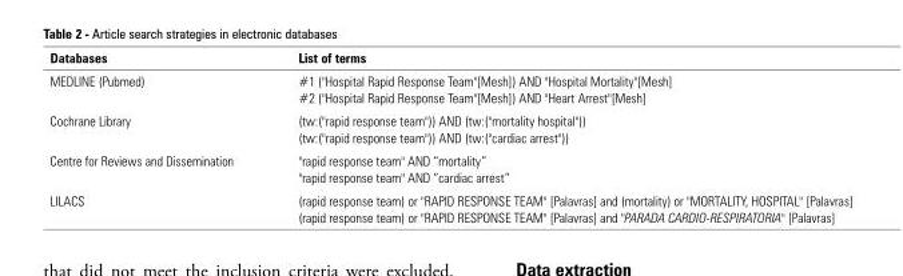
<table><thead><tr><td>Databases</td><td>List of terms</td></tr></thead><tbody><tr><td>MEDLINE (Pubmed)</td><td>#1 (&quot;Hospital Rapid Response Team&quot;[Mesh]) AND &quot;Hospital Mortality&quot;[Mesh] #2 (&quot;Hospital Rapid Response Team&quot;[Mesh]) AND &quot;Heart Arrest&quot;[Mesh]</td></tr><tr><td>Cochrane Library</td><td>(tw:(&quot;rapid response team&quot;)) AND (tw:(&quot;mortality hospital&quot;)) (tw:(&quot;rapid response team&quot;)) AND (tw:(&quot;cardiac arrest&quot;))</td></tr><tr><td>Centre for Reviews and Dissemination</td><td>&quot;rapid response team&quot; AND “mortality” &quot;rapid response team&quot; AND “cardiac arrest”</td></tr><tr><td>LILACS</td><td>(rapid response team) or &quot;RAPID RESPONSE TEAM&quot; [Palavras] and (mortality) or &quot;MORTALITY, HOSPITAL&quot; [Palavras] (rapid response team) or &quot;RAPID RESPONSE TEAM&quot; [Palavras] and &quot;PARADA CARDIO-RESPIRATORIA&quot; [Palavras]</td></tr></tbody></table>